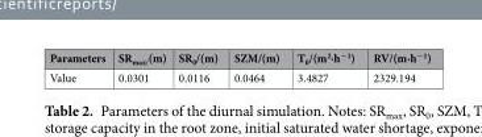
<table><thead><tr><td>Parameters</td><td>SR<sub>max/</sub>(m)</td><td>SR<sub>0</sub>/(m)</td><td>SZM/(m)</td><td>T<sub>0</sub>/(m<sup>2</sup>·h<sup>−1</sup>)</td><td>RV/(m·h<sup>−1</sup>)</td></tr></thead><tbody><tr><td>Value</td><td>0.0301</td><td>0.0116</td><td>0.0464</td><td>3.4827</td><td>2329.194</td></tr></tbody></table>